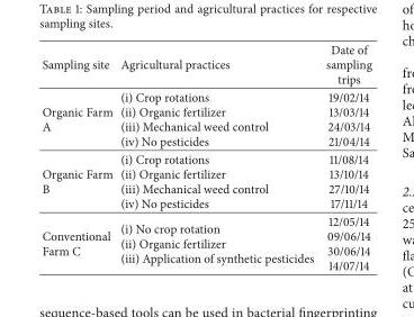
<table><thead><tr><td>Sampling site</td><td>Agricultural practices</td><td>Date of sampling trips</td></tr></thead><tbody><tr><td>Organic Farm A</td><td>(i) Crop rotations (ii) Organic fertilizer (iii) Mechanical weed control (iv) No pesticides</td><td>19/02/14 13/03/14 24/03/14 21/04/14</td></tr><tr><td>Organic Farm B</td><td>(i) Crop rotations (ii) Organic fertilizer (iii) Mechanical weed control (iv) No pesticides</td><td>11/08/14 13/10/14 27/10/14 17/11/14</td></tr><tr><td>Conventional Farm C</td><td>(i) No crop rotation (ii) Organic fertilizer (iii) Application of synthetic pesticides</td><td>12/05/14 09/06/14 30/06/14 14/07/14</td></tr></tbody></table>